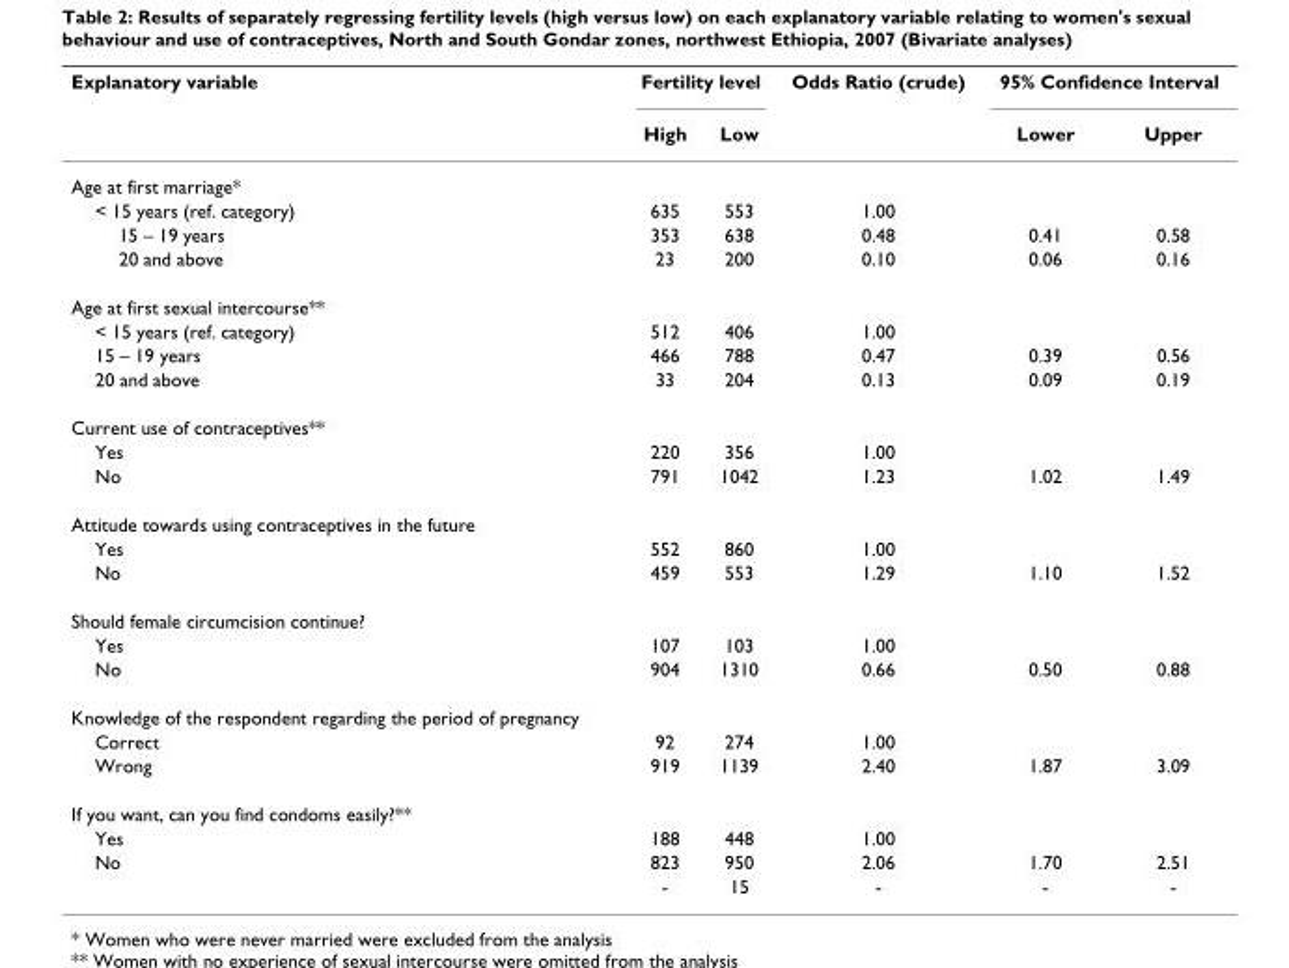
<table><thead><tr><td rowspan="2">Explanatory variable</td><td colspan="2">Fertility level</td><td rowspan="2">Odds Ratio (crude)</td><td colspan="2">95% Confidence Interval</td></tr><tr><td>High</td><td>Low</td><td>Lower</td><td>Upper</td></tr></thead><tbody><tr><td colspan="6">Age at first marriage*</td></tr><tr><td>&lt; 15 years (ref. category)</td><td>635</td><td>553</td><td>1.00</td><td></td><td></td></tr><tr><td>15 – 19 years</td><td>353</td><td>638</td><td>0.48</td><td>0.41</td><td>0.58</td></tr><tr><td>20 and above</td><td>23</td><td>200</td><td>0.10</td><td>0.06</td><td>0.16</td></tr><tr><td colspan="6">Age at first sexual intercourse**</td></tr><tr><td>&lt; 15 years (ref. category)</td><td>512</td><td>406</td><td>1.00</td><td></td><td></td></tr><tr><td>15 – 19 years</td><td>466</td><td>788</td><td>0.47</td><td>0.39</td><td>0.56</td></tr><tr><td>20 and above</td><td>33</td><td>204</td><td>0.13</td><td>0.09</td><td>0.19</td></tr><tr><td colspan="6">Current use of contraceptives**</td></tr><tr><td>Yes</td><td>220</td><td>356</td><td>1.00</td><td></td><td></td></tr><tr><td>No</td><td>791</td><td>1042</td><td>1.23</td><td>1.02</td><td>1.49</td></tr><tr><td colspan="6">Attitude towards using contraceptives in the future</td></tr><tr><td>Yes</td><td>552</td><td>860</td><td>1.00</td><td></td><td></td></tr><tr><td>No</td><td>459</td><td>553</td><td>1.29</td><td>1.10</td><td>1.52</td></tr><tr><td colspan="6">Should female circumcision continue?</td></tr><tr><td>Yes</td><td>107</td><td>103</td><td>1.00</td><td></td><td></td></tr><tr><td>No</td><td>904</td><td>1310</td><td>0.66</td><td>0.50</td><td>0.88</td></tr><tr><td colspan="6">Knowledge of the respondent regarding the period of pregnancy</td></tr><tr><td>Correct</td><td>92</td><td>274</td><td>1.00</td><td></td><td></td></tr><tr><td>Wrong</td><td>919</td><td>1139</td><td>2.40</td><td>1.87</td><td>3.09</td></tr><tr><td colspan="6">If you want, can you find condoms easily?**</td></tr><tr><td>Yes</td><td>188</td><td>448</td><td>1.00</td><td></td><td></td></tr><tr><td rowspan="2">No</td><td>823</td><td>950</td><td>2.06</td><td>1.70</td><td>2.51</td></tr><tr><td>-</td><td>15</td><td>-</td><td>-</td><td>-</td></tr></tbody></table>